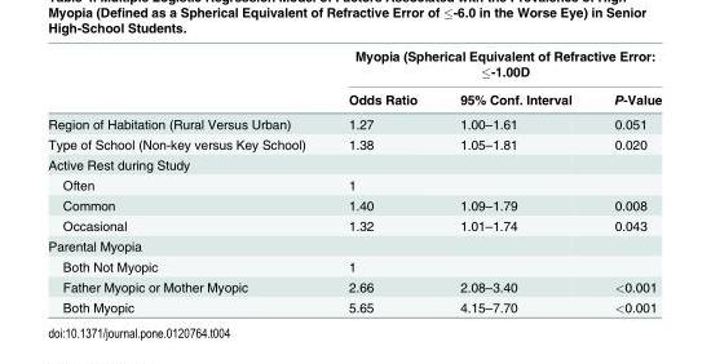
<table><thead><tr><td rowspan="2"></td><td colspan="3">Myopia (Spherical Equivalent of Refractive Error: ≤-1.00D</td></tr><tr><td>Odds Ratio</td><td>95% Conf. Interval</td><td>P-Value</td></tr></thead><tbody><tr><td>Region of Habitation (Rural Versus Urban)</td><td>1.27</td><td>1.00–1.61</td><td>0.051</td></tr><tr><td>Type of School (Non-key versus Key School)</td><td>1.38</td><td>1.05–1.81</td><td>0.020</td></tr><tr><td colspan="4">Active Rest during Study</td></tr><tr><td>Often</td><td>1</td><td></td><td></td></tr><tr><td>Common</td><td>1.40</td><td>1.09–1.79</td><td>0.008</td></tr><tr><td>Occasional</td><td>1.32</td><td>1.01–1.74</td><td>0.043</td></tr><tr><td colspan="4">Parental Myopia</td></tr><tr><td>Both Not Myopic</td><td>1</td><td></td><td></td></tr><tr><td>Father Myopic or Mother Myopic</td><td>2.66</td><td>2.08–3.40</td><td>&lt;0.001</td></tr><tr><td>Both Myopic</td><td>5.65</td><td>4.15–7.70</td><td>&lt;0.001</td></tr></tbody></table>